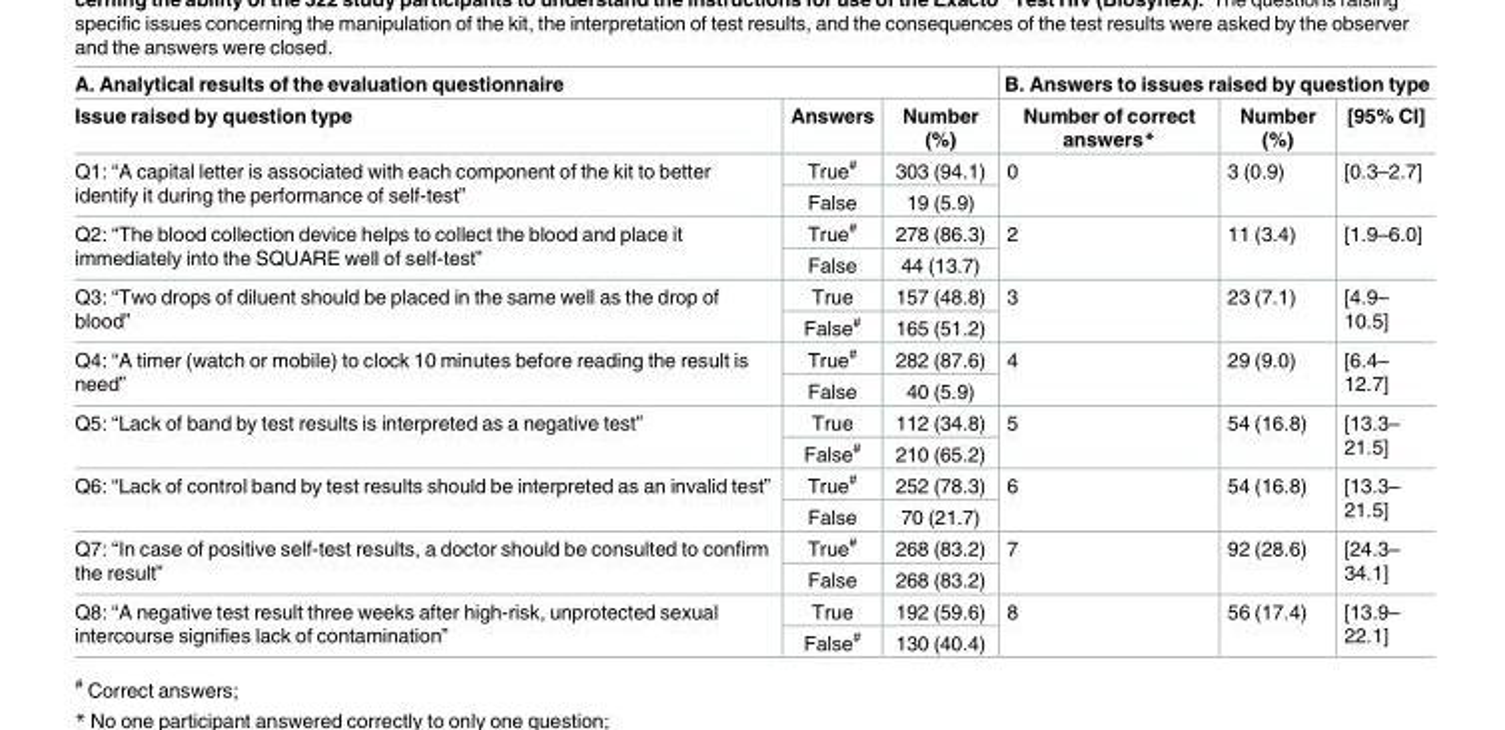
<table><thead><tr><td colspan="3">A. Analytical results of the evaluation questionnaire</td><td colspan="3">B. Answers to issues raised by question type</td></tr><tr><td>Issue raised by question type</td><td>Answers</td><td>Number (%)</td><td>Number of correct answers*</td><td>Number (%)</td><td>[95% CI]</td></tr></thead><tbody><tr><td rowspan="2">Q1: “A capital letter is associated with each component of the kit to better identify it during the performance of self-test”</td><td>True<sup>#</sup></td><td>303 (94.1)</td><td rowspan="2">0</td><td rowspan="2">3 (0.9)</td><td rowspan="2">[0.3–2.7]</td></tr><tr><td>False</td><td>19 (5.9)</td></tr><tr><td rowspan="2">Q2: “The blood collection device helps to collect the blood and place it immediately into the SQUARE well of self-test”</td><td>True<sup>#</sup></td><td>278 (86.3)</td><td rowspan="2">2</td><td rowspan="2">11 (3.4)</td><td rowspan="2">[1.9–6.0]</td></tr><tr><td>False</td><td>44 (13.7)</td></tr><tr><td rowspan="2">Q3: “Two drops of diluent should be placed in the same well as the drop of blood”</td><td>True</td><td>157 (48.8)</td><td rowspan="2">3</td><td rowspan="2">23 (7.1)</td><td rowspan="2">[4.9– 10.5]</td></tr><tr><td>False<sup>#</sup></td><td>165 (51.2)</td></tr><tr><td rowspan="2">Q4: “A timer (watch or mobile) to clock 10 minutes before reading the result is need”</td><td>True<sup>#</sup></td><td>282 (87.6)</td><td rowspan="2">4</td><td rowspan="2">29 (9.0)</td><td rowspan="2">[6.4– 12.7]</td></tr><tr><td>False</td><td>40 (5.9)</td></tr><tr><td rowspan="2">Q5: “Lack of band by test results is interpreted as a negative test”</td><td>True</td><td>112 (34.8)</td><td rowspan="2">5</td><td rowspan="2">54 (16.8)</td><td rowspan="2">[13.3– 21.5]</td></tr><tr><td>False<sup>#</sup></td><td>210 (65.2)</td></tr><tr><td rowspan="2">Q6: “Lack of control band by test results should be interpreted as an invalid test”</td><td>True<sup>#</sup></td><td>252 (78.3)</td><td rowspan="2">6</td><td rowspan="2">54 (16.8)</td><td rowspan="2">[13.3– 21.5]</td></tr><tr><td>False</td><td>70 (21.7)</td></tr><tr><td rowspan="2">Q7: “In case of positive self-test results, a doctor should be consulted to confirm the result”</td><td>True<sup>#</sup></td><td>268 (83.2)</td><td rowspan="2">7</td><td rowspan="2">92 (28.6)</td><td rowspan="2">[24.3– 34.1]</td></tr><tr><td>False</td><td>268 (83.2)</td></tr><tr><td rowspan="2">Q8: “A negative test result three weeks after high-risk, unprotected sexual intercourse signifies lack of contamination”</td><td>True</td><td>192 (59.6)</td><td rowspan="2">8</td><td rowspan="2">56 (17.4)</td><td rowspan="2">[13.9– 22.1]</td></tr><tr><td>False<sup>#</sup></td><td>130 (40.4)</td></tr></tbody></table>